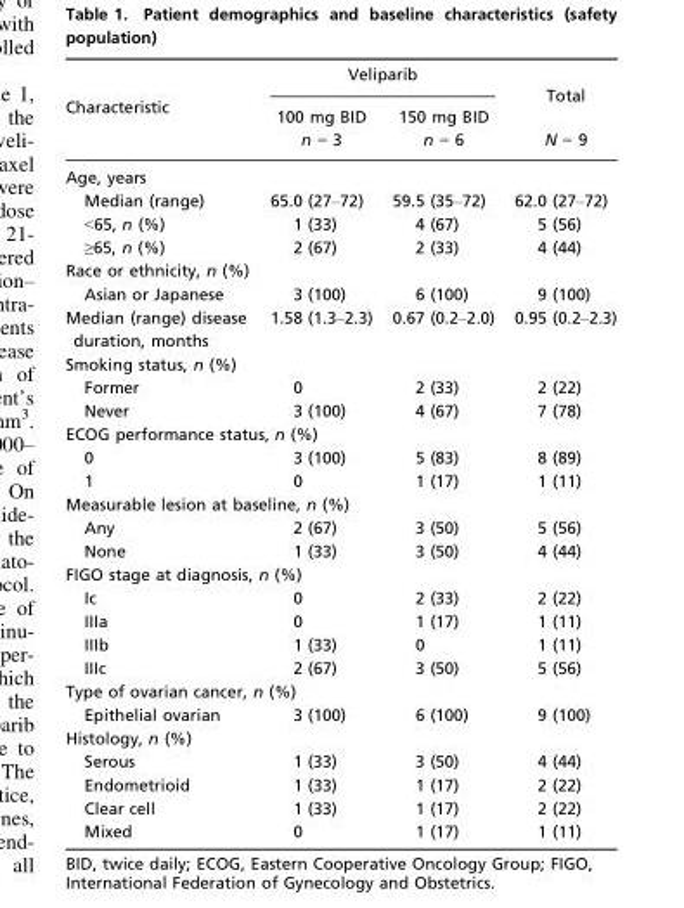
<table><thead><tr><td rowspan="3">Characteristic</td><td colspan="2">Veliparib</td><td rowspan="3">Total N = 9</td></tr><tr><td rowspan="2">100 mg BID n = 3</td><td rowspan="2">150 mg BID n = 6</td></tr><tr></tr></thead><tbody><tr><td colspan="4">Age, years</td></tr><tr><td>Median (range)</td><td>65.0 (27–72)</td><td>59.5 (35–72)</td><td>62.0 (27–72)</td></tr><tr><td>&lt;65, n (%)</td><td>1 (33)</td><td>4 (67)</td><td>5 (56)</td></tr><tr><td>≥65, n (%)</td><td>2 (67)</td><td>2 (33)</td><td>4 (44)</td></tr><tr><td colspan="4">Race or ethnicity, n (%)</td></tr><tr><td>Asian or Japanese</td><td>3 (100)</td><td>6 (100)</td><td>9 (100)</td></tr><tr><td>Median (range) disease duration, months</td><td>1.58 (1.3–2.3)</td><td>0.67 (0.2–2.0)</td><td>0.95 (0.2–2.3)</td></tr><tr><td colspan="4">Smoking status, n (%)</td></tr><tr><td>Former</td><td>0</td><td>2 (33)</td><td>2 (22)</td></tr><tr><td>Never</td><td>3 (100)</td><td>4 (67)</td><td>7 (78)</td></tr><tr><td colspan="4">ECOG performance status, n (%)</td></tr><tr><td>0</td><td>3 (100)</td><td>5 (83)</td><td>8 (89)</td></tr><tr><td>1</td><td>0</td><td>1 (17)</td><td>1 (11)</td></tr><tr><td colspan="4">Measurable lesion at baseline, n (%)</td></tr><tr><td>Any</td><td>2 (67)</td><td>3 (50)</td><td>5 (56)</td></tr><tr><td>None</td><td>1 (33)</td><td>3 (50)</td><td>4 (44)</td></tr><tr><td colspan="4">FIGO stage at diagnosis, n (%)</td></tr><tr><td>Ic</td><td>0</td><td>2 (33)</td><td>2 (22)</td></tr><tr><td>IIIa</td><td>0</td><td>1 (17)</td><td>1 (11)</td></tr><tr><td>IIIb</td><td>1 (33)</td><td>0</td><td>1 (11)</td></tr><tr><td>IIIc</td><td>2 (67)</td><td>3 (50)</td><td>5 (56)</td></tr><tr><td colspan="4">Type of ovarian cancer, n (%)</td></tr><tr><td>Epithelial ovarian</td><td>3 (100)</td><td>6 (100)</td><td>9 (100)</td></tr><tr><td colspan="4">Histology, n (%)</td></tr><tr><td>Serous</td><td>1 (33)</td><td>3 (50)</td><td>4 (44)</td></tr><tr><td>Endometrioid</td><td>1 (33)</td><td>1 (17)</td><td>2 (22)</td></tr><tr><td>Clear cell</td><td>1 (33)</td><td>1 (17)</td><td>2 (22)</td></tr><tr><td>Mixed</td><td>0</td><td>1 (17)</td><td>1 (11)</td></tr></tbody></table>